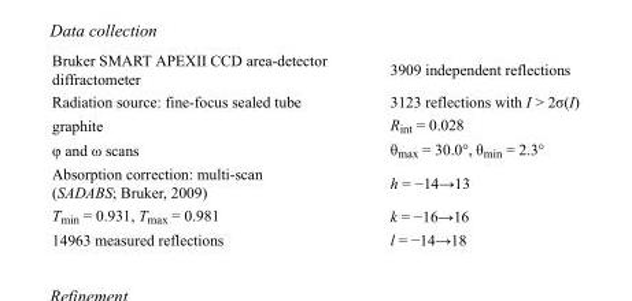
<table><tbody><tr><td>Bruker SMART APEXII CCD area-detector diffractometer</td><td>3909 independent reflections</td></tr><tr><td>Radiation source: fine-focus sealed tube</td><td>3123 reflections with I &gt; 2σ(I)</td></tr><tr><td>graphite</td><td>R<sub>int</sub> = 0.028</td></tr><tr><td>φ and ω scans</td><td>θ<sub>max</sub> = 30.0°, θ<sub>min</sub> = 2.3°</td></tr><tr><td>Absorption correction: multi-scan (SADABS; Bruker, 2009)</td><td>h = −14→13</td></tr><tr><td>T<sub>min</sub> = 0.931, T<sub>max</sub> = 0.981</td><td>k = −16→16</td></tr><tr><td>14963 measured reflections</td><td>l = −14→18</td></tr></tbody></table>